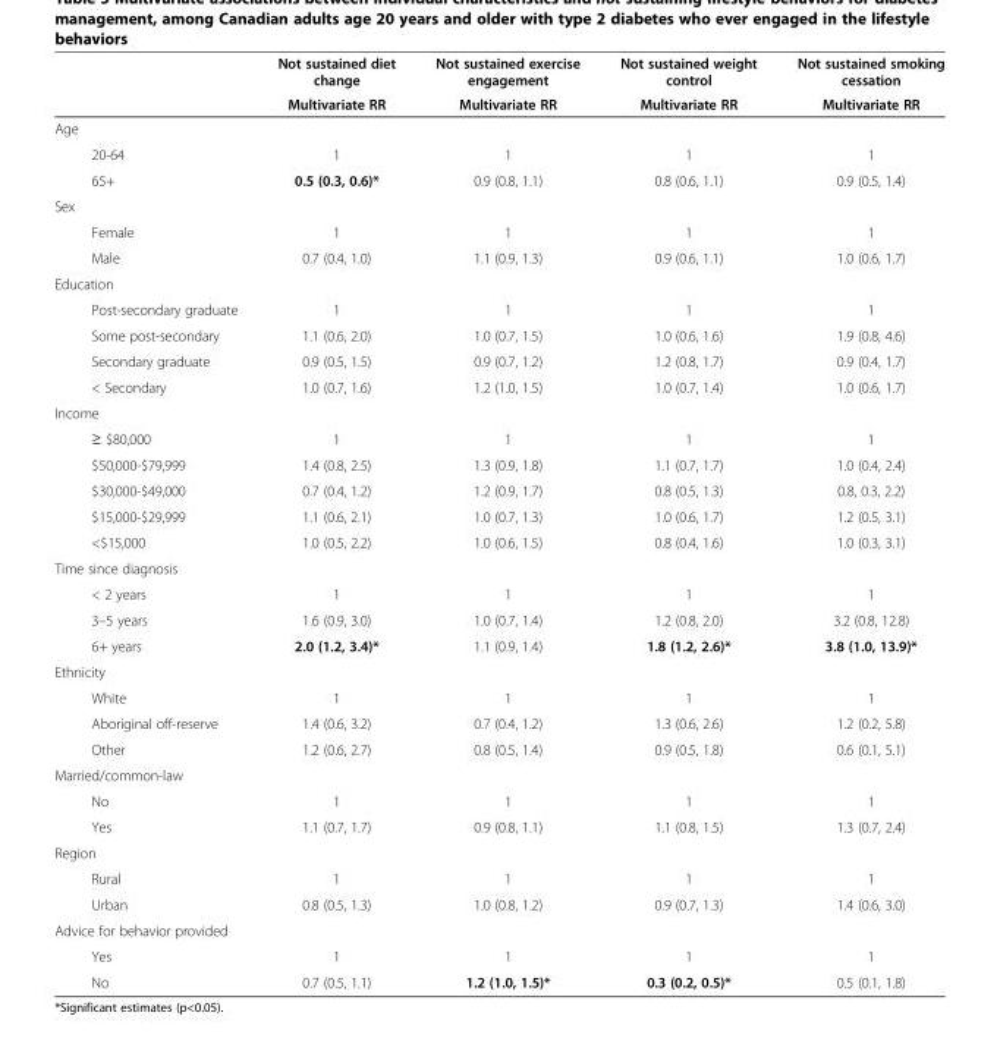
<table><thead><tr><td rowspan="2"></td><td rowspan="2">Not sustained diet change Multivariate RR</td><td rowspan="2">Not sustained exercise engagement Multivariate RR</td><td rowspan="2">Not sustained weight control Multivariate RR</td><td rowspan="2">Not sustained smoking cessation Multivariate RR</td></tr><tr></tr></thead><tbody><tr><td colspan="5">Age</td></tr><tr><td>20-64</td><td>1</td><td>1</td><td>1</td><td>1</td></tr><tr><td>65+</td><td>0.5 (0.3, 0.6)*</td><td>0.9 (0.8, 1.1)</td><td>0.8 (0.6, 1.1)</td><td>0.9 (0.5, 1.4)</td></tr><tr><td colspan="5">Sex</td></tr><tr><td>Female</td><td>1</td><td>1</td><td>1</td><td>1</td></tr><tr><td>Male</td><td>0.7 (0.4, 1.0)</td><td>1.1 (0.9, 1.3)</td><td>0.9 (0.6, 1.1)</td><td>1.0 (0.6, 1.7)</td></tr><tr><td colspan="5">Education</td></tr><tr><td>Post-secondary graduate</td><td>1</td><td>1</td><td>1</td><td>1</td></tr><tr><td>Some post-secondary</td><td>1.1 (0.6, 2.0)</td><td>1.0 (0.7, 1.5)</td><td>1.0 (0.6, 1.6)</td><td>1.9 (0.8, 4.6)</td></tr><tr><td>Secondary graduate</td><td>0.9 (0.5, 1.5)</td><td>0.9 (0.7, 1.2)</td><td>1.2 (0.8, 1.7)</td><td>0.9 (0.4, 1.7)</td></tr><tr><td>&lt; Secondary</td><td>1.0 (0.7, 1.6)</td><td>1.2 (1.0, 1.5)</td><td>1.0 (0.7, 1.4)</td><td>1.0 (0.6, 1.7)</td></tr><tr><td colspan="5">Income</td></tr><tr><td>≥ $80,000</td><td>1</td><td>1</td><td>1</td><td>1</td></tr><tr><td>$50,000-$79,999</td><td>1.4 (0.8, 2.5)</td><td>1.3 (0.9, 1.8)</td><td>1.1 (0.7, 1.7)</td><td>1.0 (0.4, 2.4)</td></tr><tr><td>$30,000-$49,000</td><td>0.7 (0.4, 1.2)</td><td>1.2 (0.9, 1.7)</td><td>0.8 (0.5, 1.3)</td><td>0.8, 0.3, 2.2)</td></tr><tr><td>$15,000-$29,999</td><td>1.1 (0.6, 2.1)</td><td>1.0 (0.7, 1.3)</td><td>1.0 (0.6, 1.7)</td><td>1.2 (0.5, 3.1)</td></tr><tr><td>&lt;$15,000</td><td>1.0 (0.5, 2.2)</td><td>1.0 (0.6, 1.5)</td><td>0.8 (0.4, 1.6)</td><td>1.0 (0.3, 3.1)</td></tr><tr><td colspan="5">Time since diagnosis</td></tr><tr><td>&lt; 2 years</td><td>1</td><td>1</td><td>1</td><td>1</td></tr><tr><td>3–5 years</td><td>1.6 (0.9, 3.0)</td><td>1.0 (0.7, 1.4)</td><td>1.2 (0.8, 2.0)</td><td>3.2 (0.8, 12.8)</td></tr><tr><td>6+ years</td><td>2.0 (1.2, 3.4)*</td><td>1.1 (0.9, 1.4)</td><td>1.8 (1.2, 2.6)*</td><td>3.8 (1.0, 13.9)*</td></tr><tr><td colspan="5">Ethnicity</td></tr><tr><td>White</td><td>1</td><td>1</td><td>1</td><td>1</td></tr><tr><td>Aboriginal off-reserve</td><td>1.4 (0.6, 3.2)</td><td>0.7 (0.4, 1.2)</td><td>1.3 (0.6, 2.6)</td><td>1.2 (0.2, 5.8)</td></tr><tr><td>Other</td><td>1.2 (0.6, 2.7)</td><td>0.8 (0.5, 1.4)</td><td>0.9 (0.5, 1.8)</td><td>0.6 (0.1, 5.1)</td></tr><tr><td colspan="5">Married/common-law</td></tr><tr><td>No</td><td>1</td><td>1</td><td>1</td><td>1</td></tr><tr><td>Yes</td><td>1.1 (0.7, 1.7)</td><td>0.9 (0.8, 1.1)</td><td>1.1 (0.8, 1.5)</td><td>1.3 (0.7, 2.4)</td></tr><tr><td colspan="5">Region</td></tr><tr><td>Rural</td><td>1</td><td>1</td><td>1</td><td>1</td></tr><tr><td>Urban</td><td>0.8 (0.5, 1.3)</td><td>1.0 (0.8, 1.2)</td><td>0.9 (0.7, 1.3)</td><td>1.4 (0.6, 3.0)</td></tr><tr><td colspan="5">Advice for behavior provided</td></tr><tr><td>Yes</td><td>1</td><td>1</td><td>1</td><td>1</td></tr><tr><td>No</td><td>0.7 (0.5, 1.1)</td><td>1.2 (1.0, 1.5)*</td><td>0.3 (0.2, 0.5)*</td><td>0.5 (0.1, 1.8)</td></tr></tbody></table>